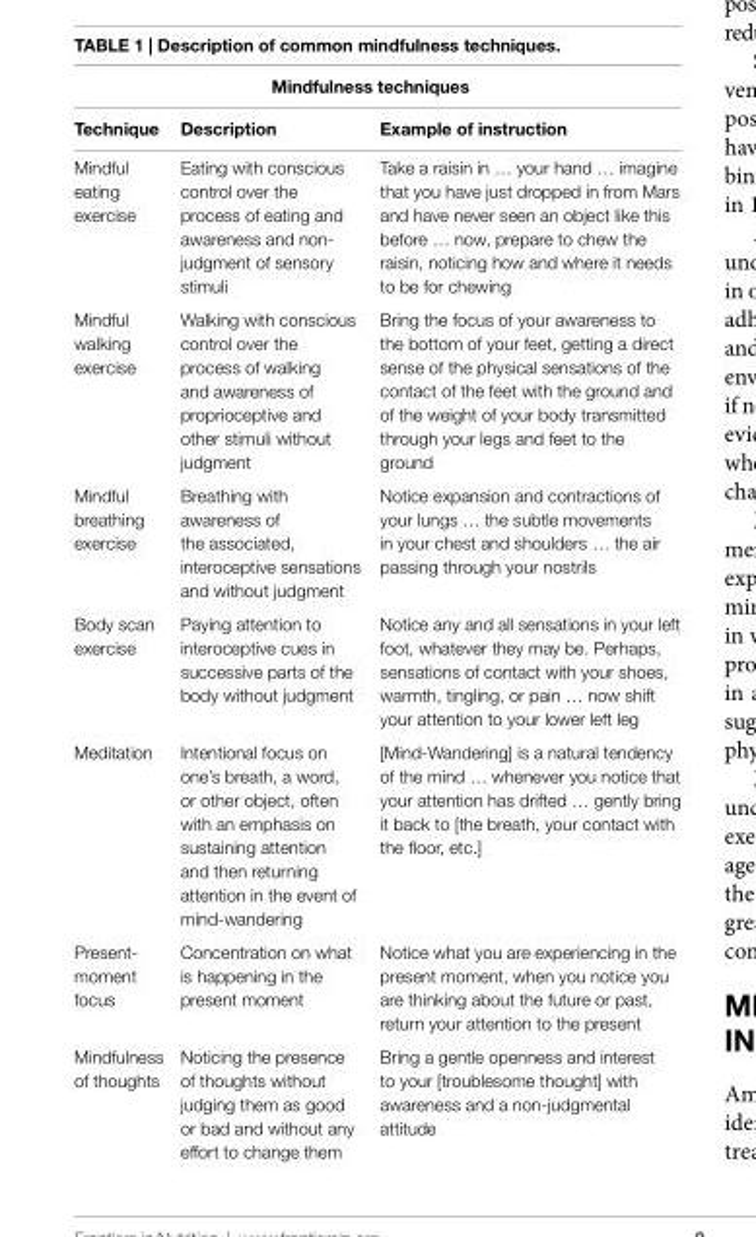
<table><thead><tr><td colspan="3">Mindfulness techniques</td></tr><tr><td>technique</td><td>Description</td><td>example of instruction</td></tr></thead><tbody><tr><td>Mindful eating exercise</td><td>Eating with conscious control over the process of eating and awareness and non- judgment of sensory stimuli</td><td>Take a raisin in … your hand … imagine that you have just dropped in from Mars and have never seen an object like this before … now, prepare to chew the raisin, noticing how and where it needs to be for chewing</td></tr><tr><td>Mindful walking exercise</td><td>Walking with conscious control over the process of walking and awareness of proprioceptive and other stimuli without judgment</td><td>Bring the focus of your awareness to the bottom of your feet, getting a direct sense of the physical sensations of the contact of the feet with the ground and of the weight of your body transmitted through your legs and feet to the ground</td></tr><tr><td>Mindful breathing exercise</td><td>Breathing with awareness of the associated, interoceptive sensations and without judgment</td><td>Notice expansion and contractions of your lungs … the subtle movements in your chest and shoulders … the air passing through your nostrils</td></tr><tr><td>Body scan exercise</td><td>Paying attention to interoceptive cues in successive parts of the body without judgment</td><td>Notice any and all sensations in your left foot, whatever they may be. Perhaps, sensations of contact with your shoes, warmth, tingling, or pain … now shift your attention to your lower left leg</td></tr><tr><td>Meditation</td><td>Intentional focus on one’s breath, a word, or other object, often with an emphasis on sustaining attention and then returning attention in the event of mind-wandering</td><td>[Mind-Wandering] is a natural tendency of the mind … whenever you notice that your attention has drifted … gently bring it back to [the breath, your contact with the floor, etc.]</td></tr><tr><td>Present- moment focus</td><td>Concentration on what is happening in the present moment</td><td>Notice what you are experiencing in the present moment, when you notice you are thinking about the future or past, return your attention to the present</td></tr><tr><td>Mindfulness of thoughts</td><td>Noticing the presence of thoughts without judging them as good or bad and without any effort to change them</td><td>Bring a gentle openness and interest to your [troublesome thought] with awareness and a non-judgmental attitude</td></tr></tbody></table>